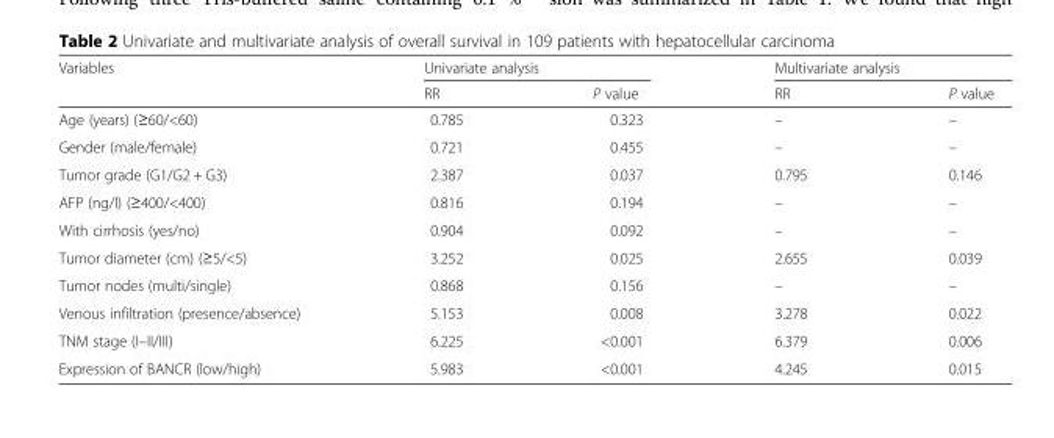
<table><thead><tr><td rowspan="2">Variables</td><td colspan="2">Univariate analysis</td><td colspan="2">Multivariate analysis</td></tr><tr><td>RR</td><td>P value</td><td>RR</td><td>P value</td></tr></thead><tbody><tr><td>Age (years) (≥60/&lt;60)</td><td>0.785</td><td>0.323</td><td>–</td><td>–</td></tr><tr><td>Gender (male/female)</td><td>0.721</td><td>0.455</td><td>–</td><td>–</td></tr><tr><td>Tumor grade (G1/G2 + G3)</td><td>2.387</td><td>0.037</td><td>0.795</td><td>0.146</td></tr><tr><td>AFP (ng/l) (≥400/&lt;400)</td><td>0.816</td><td>0.194</td><td>–</td><td>–</td></tr><tr><td>With cirrhosis (yes/no)</td><td>0.904</td><td>0.092</td><td>–</td><td>–</td></tr><tr><td>Tumor diameter (cm) (≥5/&lt;5)</td><td>3.252</td><td>0.025</td><td>2.655</td><td>0.039</td></tr><tr><td>Tumor nodes (multi/single)</td><td>0.868</td><td>0.156</td><td>–</td><td>–</td></tr><tr><td>Venous infiltration (presence/absence)</td><td>5.153</td><td>0.008</td><td>3.278</td><td>0.022</td></tr><tr><td>TNM stage (I–II/III)</td><td>6.225</td><td>&lt;0.001</td><td>6.379</td><td>0.006</td></tr><tr><td>Expression of BANCR (low/high)</td><td>5.983</td><td>&lt;0.001</td><td>4.245</td><td>0.015</td></tr></tbody></table>